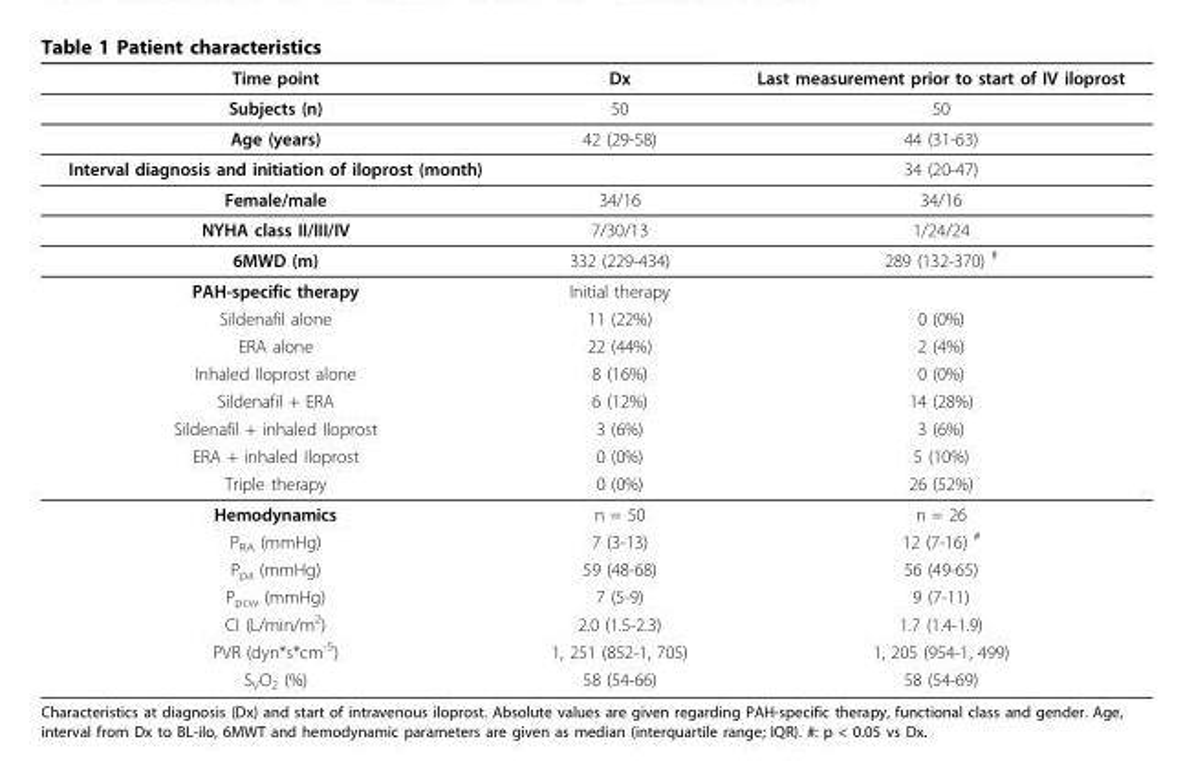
<table><thead><tr><td>Time point</td><td>Dx</td><td>Last measurement prior to start of IV iloprost</td></tr></thead><tbody><tr><td>Subjects (n)</td><td>50</td><td>50</td></tr><tr><td>Age (years)</td><td>42 (29-58)</td><td>44 (31-63)</td></tr><tr><td>Interval diagnosis and initiation of iloprost (month)</td><td></td><td>34 (20-47)</td></tr><tr><td>Female/male</td><td>34/16</td><td>34/16</td></tr><tr><td>NYHA class II/III/IV</td><td>7/30/13</td><td>1/24/24</td></tr><tr><td>6MWD (m)</td><td>332 (229-434)</td><td>289 (132-370) <sup>#</sup></td></tr><tr><td>PAH-specific therapy</td><td>Initial therapy</td><td></td></tr><tr><td>Sildenafil alone</td><td>11 (22%)</td><td>0 (0%)</td></tr><tr><td>ERA alone</td><td>22 (44%)</td><td>2 (4%)</td></tr><tr><td>Inhaled Iloprost alone</td><td>8 (16%)</td><td>0 (0%)</td></tr><tr><td>Sildenafil + ERA</td><td>6 (12%)</td><td>14 (28%)</td></tr><tr><td>Sildenafil + inhaled Iloprost</td><td>3 (6%)</td><td>3 (6%)</td></tr><tr><td>ERA + inhaled Iloprost</td><td>0 (0%)</td><td>5 (10%)</td></tr><tr><td>Triple therapy</td><td>0 (0%)</td><td>26 (52%)</td></tr><tr><td>Hemodynamics</td><td>n = 50</td><td>n = 26</td></tr><tr><td>P<sub>RA</sub> (mmHg)</td><td>7 (3-13)</td><td>12 (7-16) <sup>#</sup></td></tr><tr><td>P<sub>pa</sub> (mmHg)</td><td>59 (48-68)</td><td>56 (49-65)</td></tr><tr><td>P<sub>pcw</sub> (mmHg)</td><td>7 (5-9)</td><td>9 (7-11)</td></tr><tr><td>CI (L/min/m<sup>2</sup>)</td><td>2.0 (1.5-2.3)</td><td>1.7 (1.4-1.9)</td></tr><tr><td>PVR (dyn*s*cm<sup>-5</sup>)</td><td>1, 251 (852-1, 705)</td><td>1, 205 (954-1, 499)</td></tr><tr><td>S<sub>V</sub>O<sub>2</sub> (%)</td><td>58 (54-66)</td><td>58 (54-69)</td></tr></tbody></table>